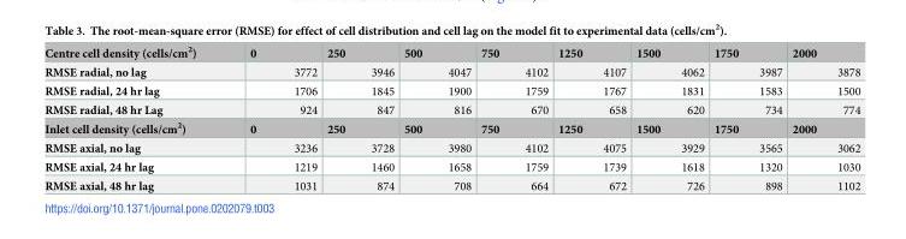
<table><tbody><tr><td>Centre cell density (cells/cm<sup>2</sup>)</td><td>0</td><td>250</td><td>500</td><td>750</td><td>1250</td><td>1500</td><td>1750</td><td>2000</td></tr><tr><td>RMSE radial, no lag</td><td>3772</td><td>3946</td><td>4047</td><td>4102</td><td>4107</td><td>4062</td><td>3987</td><td>3878</td></tr><tr><td>RMSE radial, 24 hr lag</td><td>1706</td><td>1845</td><td>1900</td><td>1759</td><td>1767</td><td>1831</td><td>1583</td><td>1500</td></tr><tr><td>RMSE radial, 48 hr Lag</td><td>924</td><td>847</td><td>816</td><td>670</td><td>658</td><td>620</td><td>734</td><td>774</td></tr><tr><td>Inlet cell density (cells/cm<sup>2</sup>)</td><td>0</td><td>250</td><td>500</td><td>750</td><td>1250</td><td>1500</td><td>1750</td><td>2000</td></tr><tr><td>RMSE axial, no lag</td><td>3236</td><td>3728</td><td>3980</td><td>4102</td><td>4075</td><td>3929</td><td>3565</td><td>3062</td></tr><tr><td>RMSE axial, 24 hr lag</td><td>1219</td><td>1460</td><td>1658</td><td>1759</td><td>1739</td><td>1618</td><td>1320</td><td>1030</td></tr><tr><td>RMSE axial, 48 hr lag</td><td>1031</td><td>874</td><td>708</td><td>664</td><td>672</td><td>726</td><td>898</td><td>1102</td></tr></tbody></table>